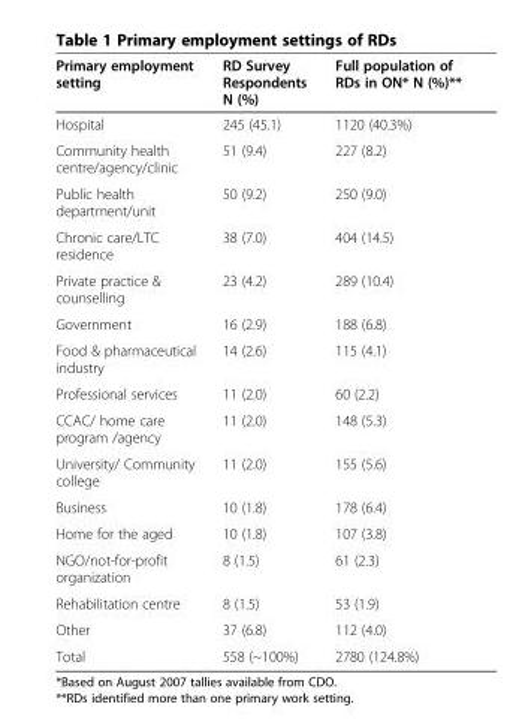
<table><thead><tr><td>Primary employment setting</td><td>RD Survey Respondents N (%)</td><td>Full population of RDs in ON* N (%)**</td></tr></thead><tbody><tr><td>Hospital</td><td>245 (45.1)</td><td>1120 (40.3%)</td></tr><tr><td>Community health centre/agency/clinic</td><td>51 (9.4)</td><td>227 (8.2)</td></tr><tr><td>Public health department/unit</td><td>50 (9.2)</td><td>250 (9.0)</td></tr><tr><td>Chronic care/LTC residence</td><td>38 (7.0)</td><td>404 (14.5)</td></tr><tr><td>Private practice &amp; counselling</td><td>23 (4.2)</td><td>289 (10.4)</td></tr><tr><td>Government</td><td>16 (2.9)</td><td>188 (6.8)</td></tr><tr><td>Food &amp; pharmaceutical industry</td><td>14 (2.6)</td><td>115 (4.1)</td></tr><tr><td>Professional services</td><td>11 (2.0)</td><td>60 (2.2)</td></tr><tr><td>CCAC/ home care program /agency</td><td>11 (2.0)</td><td>148 (5.3)</td></tr><tr><td>University/ Community college</td><td>11 (2.0)</td><td>155 (5.6)</td></tr><tr><td>Business</td><td>10 (1.8)</td><td>178 (6.4)</td></tr><tr><td>Home for the aged</td><td>10 (1.8)</td><td>107 (3.8)</td></tr><tr><td>NGO/not-for-profit organization</td><td>8 (1.5)</td><td>61 (2.3)</td></tr><tr><td>Rehabilitation centre</td><td>8 (1.5)</td><td>53 (1.9)</td></tr><tr><td>Other</td><td>37 (6.8)</td><td>112 (4.0)</td></tr><tr><td>Total</td><td>558 (~100%)</td><td>2780 (124.8%)</td></tr></tbody></table>